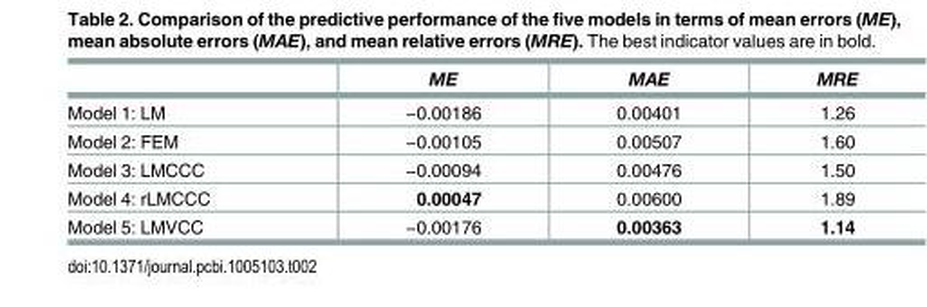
<table><thead><tr><td></td><td>ME</td><td>MAE</td><td>MRE</td></tr></thead><tbody><tr><td>Model 1: LM</td><td>−0.00186</td><td>0.00401</td><td>1.26</td></tr><tr><td>Model 2: FEM</td><td>−0.00105</td><td>0.00507</td><td>1.60</td></tr><tr><td>Model 3: LMCCC</td><td>−0.00094</td><td>0.00476</td><td>1.50</td></tr><tr><td>Model 4: rLMCCC</td><td>0.00047</td><td>0.00600</td><td>1.89</td></tr><tr><td>Model 5: LMVCC</td><td>−0.00176</td><td>0.00363</td><td>1.14</td></tr></tbody></table>